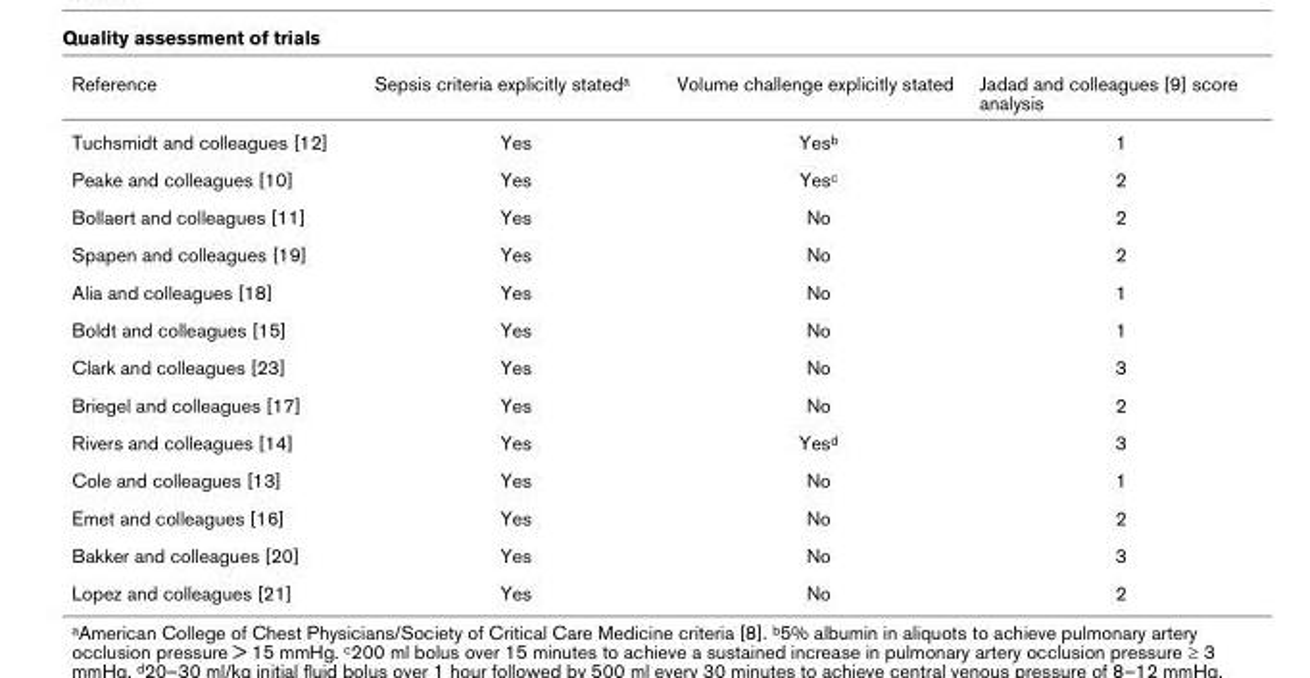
<table><thead><tr><td>Reference</td><td>Sepsis criteria explicitly stated<sup>a</sup></td><td>Volume challenge explicitly stated</td><td>Jadad and colleagues [9] score analysis</td></tr></thead><tbody><tr><td>Tuchsmidt and colleagues [12]</td><td>Yes</td><td>Yes<sup>b</sup></td><td>1</td></tr><tr><td>Peake and colleagues [10]</td><td>Yes</td><td>Yes<sup>c</sup></td><td>2</td></tr><tr><td>Bollaert and colleagues [11]</td><td>Yes</td><td>No</td><td>2</td></tr><tr><td>Spapen and colleagues [19]</td><td>Yes</td><td>No</td><td>2</td></tr><tr><td>Alia and colleagues [18]</td><td>Yes</td><td>No</td><td>1</td></tr><tr><td>Boldt and colleagues [15]</td><td>Yes</td><td>No</td><td>1</td></tr><tr><td>Clark and colleagues [23]</td><td>Yes</td><td>No</td><td>3</td></tr><tr><td>Briegel and colleagues [17]</td><td>Yes</td><td>No</td><td>2</td></tr><tr><td>Rivers and colleagues [14]</td><td>Yes</td><td>Yes<sup>d</sup></td><td>3</td></tr><tr><td>Cole and colleagues [13]</td><td>Yes</td><td>No</td><td>1</td></tr><tr><td>Emet and colleagues [16]</td><td>Yes</td><td>No</td><td>2</td></tr><tr><td>Bakker and colleagues [20]</td><td>Yes</td><td>No</td><td>3</td></tr><tr><td>Lopez and colleagues [21]</td><td>Yes</td><td>No</td><td>2</td></tr></tbody></table>